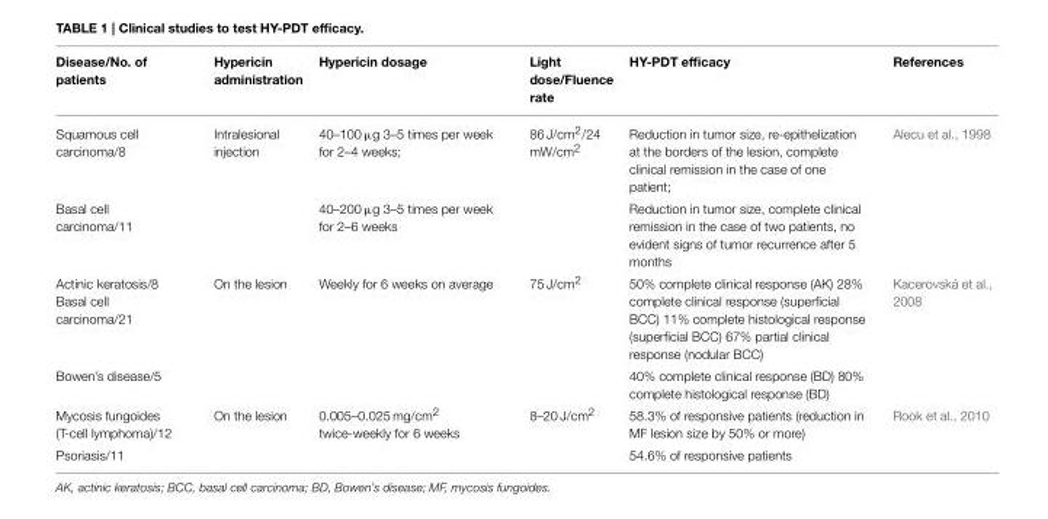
<table><thead><tr><td>Disease/No. of patients</td><td>Hypericin administration</td><td>Hypericin dosage</td><td>Light dose/Fluence rate</td><td>HY-PDT efficacy</td><td>References</td></tr></thead><tbody><tr><td>Squamous cell carcinoma/8</td><td>Intralesional injection</td><td>40–100 µg 3–5 times per week for 2–4 weeks;</td><td>86 J/cm<sup>2</sup>/24 mW/cm<sup>2</sup></td><td>Reduction in tumor size, re-epithelization at the borders of the lesion, complete clinical remission in the case of one patient;</td><td>Alecu et al., 1998</td></tr><tr><td>Basal cell carcinoma/11</td><td></td><td>40–200 µg 3–5 times per week for 2–6 weeks</td><td></td><td>Reduction in tumor size, complete clinical remission in the case of two patients, no evident signs of tumor recurrence after 5 months</td><td></td></tr><tr><td>Actinic keratosis/8 Basal cell carcinoma/21</td><td>On the lesion</td><td>Weekly for 6 weeks on average</td><td>75 J/cm<sup>2</sup></td><td>50% complete clinical response (AK) 28% complete clinical response (superficial BCC) 11% complete histological response (superficial BCC) 67% partial clinical response (nodular BCC)</td><td>Kacerovská et al., 2008</td></tr><tr><td>Bowen’s disease/5</td><td></td><td></td><td></td><td>40% complete clinical response (BD) 80% complete histological response (BD)</td><td></td></tr><tr><td>Mycosis fungoides (T-cell lymphoma)/12</td><td>On the lesion</td><td>0.005–0.025 mg/cm<sup>2</sup> twice-weekly for 6 weeks</td><td>8–20 J/cm<sup>2</sup></td><td>58.3% of responsive patients (reduction in MF lesion size by 50% or more)</td><td>Rook et al., 2010</td></tr><tr><td>Psoriasis/11</td><td></td><td></td><td></td><td>54.6% of responsive patients</td><td></td></tr></tbody></table>